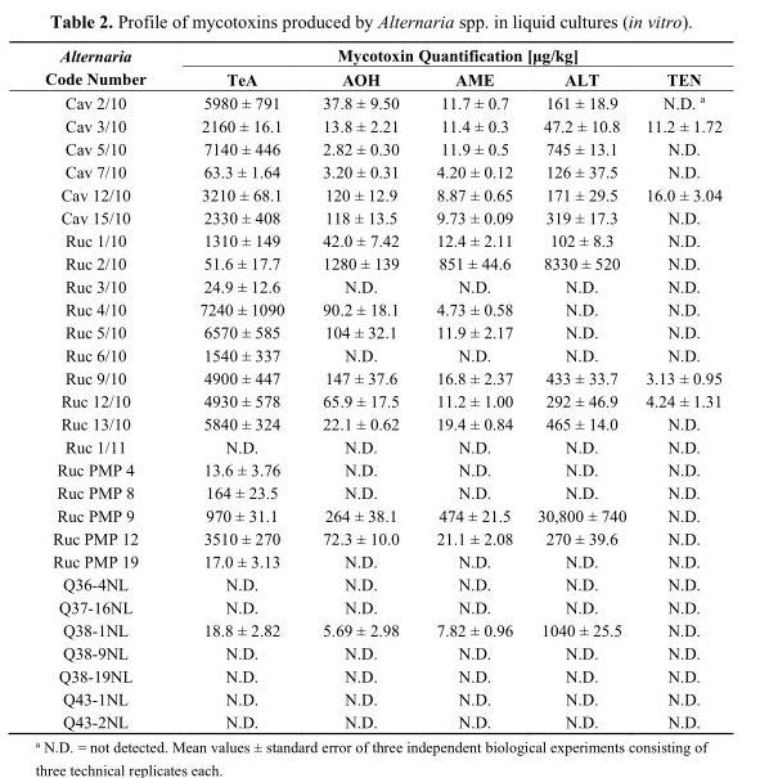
<table><thead><tr><td rowspan="2">Alternaria Code Number</td><td colspan="5">Mycotoxin Quantification [μg/kg]</td></tr><tr><td>TeA</td><td>AOH</td><td>AME</td><td>ALT</td><td>TEN</td></tr></thead><tbody><tr><td>Cav 2/10</td><td>5980 ± 791</td><td>37.8 ± 9.50</td><td>11.7 ± 0.7</td><td>161 ± 18.9</td><td>N.D. <sup>a</sup></td></tr><tr><td>Cav 3/10</td><td>2160 ± 16.1</td><td>13.8 ± 2.21</td><td>11.4 ± 0.3</td><td>47.2 ± 10.8</td><td>11.2 ± 1.72</td></tr><tr><td>Cav 5/10</td><td>7140 ± 446</td><td>2.82 ± 0.30</td><td>11.9 ± 0.5</td><td>745 ± 13.1</td><td>N.D.</td></tr><tr><td>Cav 7/10</td><td>63.3 ± 1.64</td><td>3.20 ± 0.31</td><td>4.20 ± 0.12</td><td>126 ± 37.5</td><td>N.D.</td></tr><tr><td>Cav 12/10</td><td>3210 ± 68.1</td><td>120 ± 12.9</td><td>8.87 ± 0.65</td><td>171 ± 29.5</td><td>16.0 ± 3.04</td></tr><tr><td>Cav 15/10</td><td>2330 ± 408</td><td>118 ± 13.5</td><td>9.73 ± 0.09</td><td>319 ± 17.3</td><td>N.D.</td></tr><tr><td>Ruc 1/10</td><td>1310 ± 149</td><td>42.0 ± 7.42</td><td>12.4 ± 2.11</td><td>102 ± 8.3</td><td>N.D.</td></tr><tr><td>Ruc 2/10</td><td>51.6 ± 17.7</td><td>1280 ± 139</td><td>851 ± 44.6</td><td>8330 ± 520</td><td>N.D.</td></tr><tr><td>Ruc 3/10</td><td>24.9 ± 12.6</td><td>N.D.</td><td>N.D.</td><td>N.D.</td><td>N.D.</td></tr><tr><td>Ruc 4/10</td><td>7240 ± 1090</td><td>90.2 ± 18.1</td><td>4.73 ± 0.58</td><td>N.D.</td><td>N.D.</td></tr><tr><td>Ruc 5/10</td><td>6570 ± 585</td><td>104 ± 32.1</td><td>11.9 ± 2.17</td><td>N.D.</td><td>N.D.</td></tr><tr><td>Ruc 6/10</td><td>1540 ± 337</td><td>N.D.</td><td>N.D.</td><td>N.D.</td><td>N.D.</td></tr><tr><td>Ruc 9/10</td><td>4900 ± 447</td><td>147 ± 37.6</td><td>16.8 ± 2.37</td><td>433 ± 33.7</td><td>3.13 ± 0.95</td></tr><tr><td>Ruc 12/10</td><td>4930 ± 578</td><td>65.9 ± 17.5</td><td>11.2 ± 1.00</td><td>292 ± 46.9</td><td>4.24 ± 1.31</td></tr><tr><td>Ruc 13/10</td><td>5840 ± 324</td><td>22.1 ± 0.62</td><td>19.4 ± 0.84</td><td>465 ± 14.0</td><td>N.D.</td></tr><tr><td>Ruc 1/11</td><td>N.D.</td><td>N.D.</td><td>N.D.</td><td>N.D.</td><td>N.D.</td></tr><tr><td>Ruc PMP 4</td><td>13.6 ± 3.76</td><td>N.D.</td><td>N.D.</td><td>N.D.</td><td>N.D.</td></tr><tr><td>Ruc PMP 8</td><td>164 ± 23.5</td><td>N.D.</td><td>N.D.</td><td>N.D.</td><td>N.D.</td></tr><tr><td>Ruc PMP 9</td><td>970 ± 31.1</td><td>264 ± 38.1</td><td>474 ± 21.5</td><td>30,800 ± 740</td><td>N.D.</td></tr><tr><td>Ruc PMP 12</td><td>3510 ± 270</td><td>72.3 ± 10.0</td><td>21.1 ± 2.08</td><td>270 ± 39.6</td><td>N.D.</td></tr><tr><td>Ruc PMP 19</td><td>17.0 ± 3.13</td><td>N.D.</td><td>N.D.</td><td>N.D.</td><td>N.D.</td></tr><tr><td>Q36-4NL</td><td>N.D.</td><td>N.D.</td><td>N.D.</td><td>N.D.</td><td>N.D.</td></tr><tr><td>Q37-16NL</td><td>N.D.</td><td>N.D.</td><td>N.D.</td><td>N.D.</td><td>N.D.</td></tr><tr><td>Q38-1NL</td><td>18.8 ± 2.82</td><td>5.69 ± 2.98</td><td>7.82 ± 0.96</td><td>1040 ± 25.5</td><td>N.D.</td></tr><tr><td>Q38-9NL</td><td>N.D.</td><td>N.D.</td><td>N.D.</td><td>N.D.</td><td>N.D.</td></tr><tr><td>Q38-19NL</td><td>N.D.</td><td>N.D.</td><td>N.D.</td><td>N.D.</td><td>N.D.</td></tr><tr><td>Q43-1NL</td><td>N.D.</td><td>N.D.</td><td>N.D.</td><td>N.D.</td><td>N.D.</td></tr><tr><td>Q43-2NL</td><td>N.D.</td><td>N.D.</td><td>N.D.</td><td>N.D.</td><td>N.D.</td></tr></tbody></table>